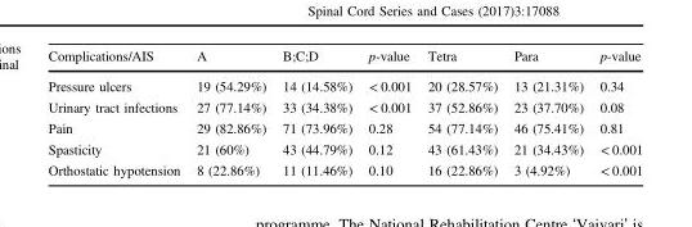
<table><thead><tr><td>Complications/AIS</td><td>A</td><td>B;C;D</td><td>p-value</td><td>Tetra</td><td>Para</td><td>p-value</td></tr></thead><tbody><tr><td>Pressure ulcers</td><td>19 (54.29%)</td><td>14 (14.58%)</td><td>&lt; 0.001</td><td>20 (28.57%)</td><td>13 (21.31%)</td><td>0.34</td></tr><tr><td>Urinary tract infections</td><td>27 (77.14%)</td><td>33 (34.38%)</td><td>&lt; 0.001</td><td>37 (52.86%)</td><td>23 (37.70%)</td><td>0.08</td></tr><tr><td>Pain</td><td>29 (82.86%)</td><td>71 (73.96%)</td><td>0.28</td><td>54 (77.14%)</td><td>46 (75.41%)</td><td>0.81</td></tr><tr><td>Spasticity</td><td>21 (60%)</td><td>43 (44.79%)</td><td>0.12</td><td>43 (61.43%)</td><td>21 (34.43%)</td><td>&lt; 0.001</td></tr><tr><td>Orthostatic hypotension</td><td>8 (22.86%)</td><td>11 (11.46%)</td><td>0.10</td><td>16 (22.86%)</td><td>3 (4.92%)</td><td>&lt; 0.001</td></tr></tbody></table>